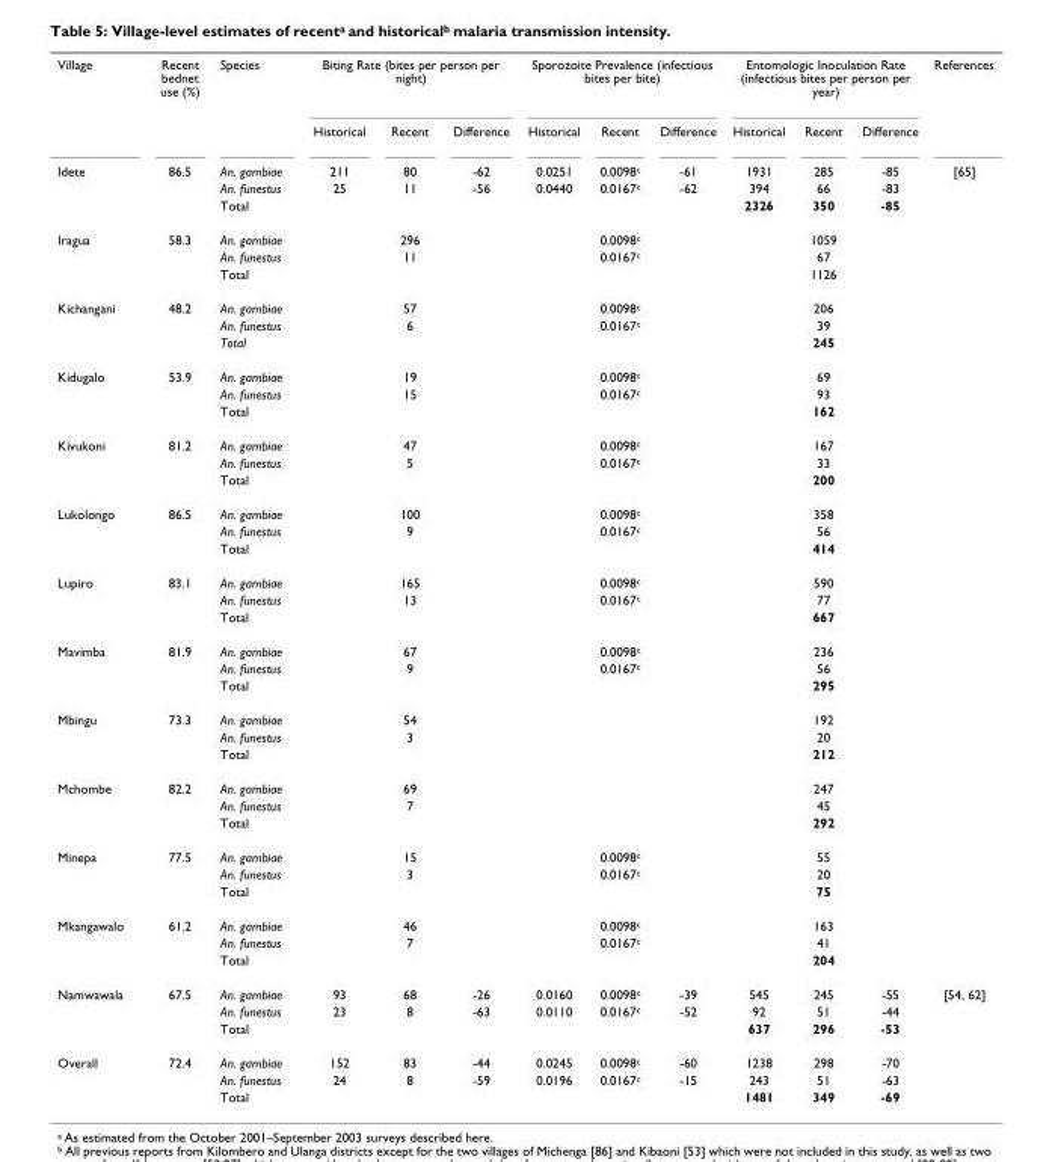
<table><tbody><tr><td rowspan="2">Village</td><td>Recent bednet use (%)</td><td>Species</td><td colspan="3">Biting Rate (bites per person per night)</td><td colspan="3">Sporozoite Prevalence (infectious bites per bite)</td><td colspan="3">Entomologic Inoculation Rate (infectious bites per person per year)</td><td>References</td></tr><tr><td></td><td></td><td>Historical</td><td>Recent</td><td>Difference</td><td>Historical</td><td>Recent</td><td>Difference</td><td>Historical</td><td>Recent</td><td>Difference</td><td></td></tr><tr><td rowspan="3">Idete</td><td>86.5</td><td>An. gambiae</td><td>211</td><td>80</td><td>-62</td><td>0.0251</td><td>0.0098<sup>c</sup></td><td>-61</td><td>1931</td><td>285</td><td>-85</td><td>[65]</td></tr><tr><td></td><td>An. funestus</td><td>25</td><td>11</td><td>-56</td><td>0.0440</td><td>0.0167<sup>c</sup></td><td>-62</td><td>394</td><td>66</td><td>-83</td><td></td></tr><tr><td></td><td>Total</td><td></td><td></td><td></td><td></td><td></td><td></td><td>2326</td><td>350</td><td>-85</td><td></td></tr><tr><td rowspan="3">Iragua</td><td>58.3</td><td>An. gambiae</td><td></td><td>296</td><td></td><td></td><td>0.0098<sup>c</sup></td><td></td><td></td><td>1059</td><td></td><td></td></tr><tr><td></td><td>An. funestus</td><td></td><td>11</td><td></td><td></td><td>0.0167<sup>c</sup></td><td></td><td></td><td>67</td><td></td><td></td></tr><tr><td></td><td>Total</td><td></td><td></td><td></td><td></td><td></td><td></td><td></td><td>1126</td><td></td><td></td></tr><tr><td rowspan="3">Kichangani</td><td>48.2</td><td>An. gambiae</td><td></td><td>57</td><td></td><td></td><td>0.0098<sup>c</sup></td><td></td><td></td><td>206</td><td></td><td></td></tr><tr><td></td><td>An. funestus</td><td></td><td>6</td><td></td><td></td><td>0.0167<sup>c</sup></td><td></td><td></td><td>39</td><td></td><td></td></tr><tr><td></td><td>Total</td><td></td><td></td><td></td><td></td><td></td><td></td><td></td><td>245</td><td></td><td></td></tr><tr><td rowspan="3">Kidugalo</td><td>53.9</td><td>An. gambiae</td><td></td><td>19</td><td></td><td></td><td>0.0098<sup>c</sup></td><td></td><td></td><td>69</td><td></td><td></td></tr><tr><td></td><td>An. funestus</td><td></td><td>15</td><td></td><td></td><td>0.0167<sup>c</sup></td><td></td><td></td><td>93</td><td></td><td></td></tr><tr><td></td><td>Total</td><td></td><td></td><td></td><td></td><td></td><td></td><td></td><td>162</td><td></td><td></td></tr><tr><td rowspan="3">Kivukoni</td><td>81.2</td><td>An. gambiae</td><td></td><td>47</td><td></td><td></td><td>0.0098<sup>c</sup></td><td></td><td></td><td>167</td><td></td><td></td></tr><tr><td></td><td>An. funestus</td><td></td><td>5</td><td></td><td></td><td>0.0167<sup>c</sup></td><td></td><td></td><td>33</td><td></td><td></td></tr><tr><td></td><td>Total</td><td></td><td></td><td></td><td></td><td></td><td></td><td></td><td>200</td><td></td><td></td></tr><tr><td rowspan="3">Lukolongo</td><td>86.5</td><td>An. gambiae</td><td></td><td>100</td><td></td><td></td><td>0.0098<sup>c</sup></td><td></td><td></td><td>358</td><td></td><td></td></tr><tr><td></td><td>An. funestus</td><td></td><td>9</td><td></td><td></td><td>0.0167<sup>c</sup></td><td></td><td></td><td>56</td><td></td><td></td></tr><tr><td></td><td>Total</td><td></td><td></td><td></td><td></td><td></td><td></td><td></td><td>414</td><td></td><td></td></tr><tr><td rowspan="3">Lupiro</td><td>83.1</td><td>An. gambiae</td><td></td><td>165</td><td></td><td></td><td>0.0098<sup>c</sup></td><td></td><td></td><td>590</td><td></td><td></td></tr><tr><td></td><td>An. funestus</td><td></td><td>13</td><td></td><td></td><td>0.0167<sup>c</sup></td><td></td><td></td><td>77</td><td></td><td></td></tr><tr><td></td><td>Total</td><td></td><td></td><td></td><td></td><td></td><td></td><td></td><td>667</td><td></td><td></td></tr><tr><td rowspan="3">Mavimba</td><td>81.9</td><td>An. gambiae</td><td></td><td>67</td><td></td><td></td><td>0.0098<sup>c</sup></td><td></td><td></td><td>236</td><td></td><td></td></tr><tr><td></td><td>An. funestus</td><td></td><td>9</td><td></td><td></td><td>0.0167<sup>c</sup></td><td></td><td></td><td>56</td><td></td><td></td></tr><tr><td></td><td>Total</td><td></td><td></td><td></td><td></td><td></td><td></td><td></td><td>295</td><td></td><td></td></tr><tr><td rowspan="3">Mbingu</td><td>73.3</td><td>An. gambiae</td><td></td><td>54</td><td></td><td></td><td></td><td></td><td></td><td>192</td><td></td><td></td></tr><tr><td></td><td>An. funestus</td><td></td><td>3</td><td></td><td></td><td></td><td></td><td></td><td>20</td><td></td><td></td></tr><tr><td></td><td>Total</td><td></td><td></td><td></td><td></td><td></td><td></td><td></td><td>212</td><td></td><td></td></tr><tr><td rowspan="3">Mchombe</td><td>82.2</td><td>An. gambiae</td><td></td><td>69</td><td></td><td></td><td></td><td></td><td></td><td>247</td><td></td><td></td></tr><tr><td></td><td>An. funestus</td><td></td><td>7</td><td></td><td></td><td></td><td></td><td></td><td>45</td><td></td><td></td></tr><tr><td></td><td>Total</td><td></td><td></td><td></td><td></td><td></td><td></td><td></td><td>292</td><td></td><td></td></tr><tr><td rowspan="3">Minepa</td><td>77.5</td><td>An. gambiae</td><td></td><td>15</td><td></td><td></td><td>0.0098<sup>c</sup></td><td></td><td></td><td>55</td><td></td><td></td></tr><tr><td></td><td>An. funestus</td><td></td><td>3</td><td></td><td></td><td>0.0167<sup>c</sup></td><td></td><td></td><td>20</td><td></td><td></td></tr><tr><td></td><td>Total</td><td></td><td></td><td></td><td></td><td></td><td></td><td></td><td>75</td><td></td><td></td></tr><tr><td rowspan="3">Mkangawalo</td><td>61.2</td><td>An. gambiae</td><td></td><td>46</td><td></td><td></td><td>0.0098<sup>c</sup></td><td></td><td></td><td>163</td><td></td><td></td></tr><tr><td></td><td>An. funestus</td><td></td><td>7</td><td></td><td></td><td>0.0167<sup>c</sup></td><td></td><td></td><td>41</td><td></td><td></td></tr><tr><td></td><td>Total</td><td></td><td></td><td></td><td></td><td></td><td></td><td></td><td>204</td><td></td><td></td></tr><tr><td rowspan="3">Namwawala</td><td>67.5</td><td>An. gambiae</td><td>93</td><td>68</td><td>-26</td><td>0.0160</td><td>0.0098<sup>c</sup></td><td>-39</td><td>545</td><td>245</td><td>-55</td><td>[54, 62]</td></tr><tr><td></td><td>An. funestus</td><td>23</td><td>8</td><td>-63</td><td>0.0110</td><td>0.0167<sup>c</sup></td><td>-52</td><td>92</td><td>51</td><td>-44</td><td></td></tr><tr><td></td><td>Total</td><td></td><td></td><td></td><td></td><td></td><td></td><td>637</td><td>296</td><td>-53</td><td></td></tr><tr><td rowspan="3">Overall</td><td>72.4</td><td>An. gambiae</td><td>152</td><td>83</td><td>-44</td><td>0.0245</td><td>0.0098<sup>c</sup></td><td>-60</td><td>1238</td><td>298</td><td>-70</td><td></td></tr><tr><td></td><td>An. funestus</td><td>24</td><td>8</td><td>-59</td><td>0.0196</td><td>0.0167<sup>c</sup></td><td>-15</td><td>243</td><td>51</td><td>-63</td><td></td></tr><tr><td></td><td>Total</td><td></td><td></td><td></td><td></td><td></td><td></td><td>1481</td><td>349</td><td>-69</td><td></td></tr></tbody></table>